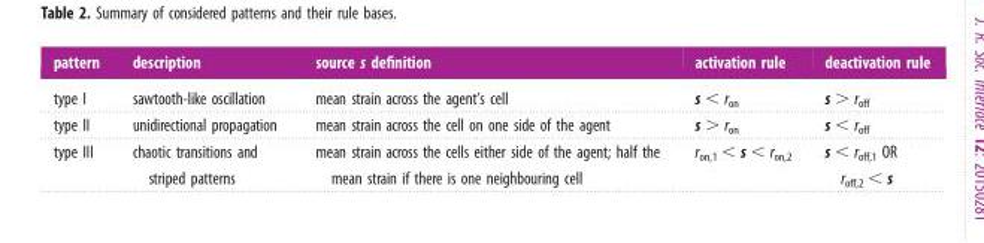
<table><thead><tr><td>pattern</td><td>description</td><td>source s definition</td><td>activation rule</td><td>deactivation rule</td></tr></thead><tbody><tr><td>type I</td><td>sawtooth-like oscillation</td><td>mean strain across the agent’s cell</td><td>s &lt; r<sub>on</sub></td><td>s &gt; r<sub>off</sub></td></tr><tr><td>type II</td><td>unidirectional propagation</td><td>mean strain across the cell on one side of the agent</td><td>s &gt; r<sub>on</sub></td><td>s &lt; r<sub>off</sub></td></tr><tr><td>type III</td><td>chaotic transitions and striped patterns</td><td>mean strain across the cells either side of the agent; half the mean strain if there is one neighbouring cell</td><td>r<sub>on,1</sub> &lt; s &lt; r<sub>on,2</sub></td><td>s &lt; r<sub>off,1</sub> OR r<sub>off,2</sub> &lt; s</td></tr></tbody></table>